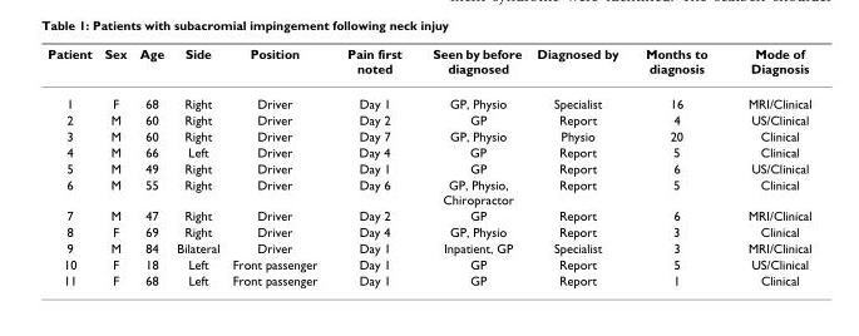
<table><thead><tr><td>Patient</td><td>Sex</td><td>Age</td><td>Side</td><td>Position</td><td>Pain first noted</td><td>Seen by before diagnosed</td><td>Diagnosed by</td><td>Months to diagnosis</td><td>Mode of Diagnosis</td></tr></thead><tbody><tr><td>1</td><td>F</td><td>68</td><td>Right</td><td>Driver</td><td>Day 1</td><td>GP, Physio</td><td>Specialist</td><td>16</td><td>MRI/Clinical</td></tr><tr><td>2</td><td>M</td><td>60</td><td>Right</td><td>Driver</td><td>Day 2</td><td>GP</td><td>Report</td><td>4</td><td>US/Clinical</td></tr><tr><td>3</td><td>M</td><td>60</td><td>Right</td><td>Driver</td><td>Day 7</td><td>GP, Physio</td><td>Physio</td><td>20</td><td>Clinical</td></tr><tr><td>4</td><td>M</td><td>66</td><td>Left</td><td>Driver</td><td>Day 4</td><td>GP</td><td>Report</td><td>5</td><td>Clinical</td></tr><tr><td>5</td><td>M</td><td>49</td><td>Right</td><td>Driver</td><td>Day 1</td><td>GP</td><td>Report</td><td>6</td><td>US/Clinical</td></tr><tr><td>6</td><td>M</td><td>55</td><td>Right</td><td>Driver</td><td>Day 6</td><td>GP, Physio, Chiropractor</td><td>Report</td><td>5</td><td>Clinical</td></tr><tr><td>7</td><td>M</td><td>47</td><td>Right</td><td>Driver</td><td>Day 2</td><td>GP</td><td>Report</td><td>6</td><td>MRI/Clinical</td></tr><tr><td>8</td><td>F</td><td>69</td><td>Right</td><td>Driver</td><td>Day 4</td><td>GP, Physio</td><td>Report</td><td>3</td><td>Clinical</td></tr><tr><td>9</td><td>M</td><td>84</td><td>Bilateral</td><td>Driver</td><td>Day 1</td><td>Inpatient, GP</td><td>Specialist</td><td>3</td><td>MRI/Clinical</td></tr><tr><td>10</td><td>F</td><td>18</td><td>Left</td><td>Front passenger</td><td>Day 1</td><td>GP</td><td>Report</td><td>5</td><td>US/Clinical</td></tr><tr><td>11</td><td>F</td><td>68</td><td>Left</td><td>Front passenger</td><td>Day 1</td><td>GP</td><td>Report</td><td>1</td><td>Clinical</td></tr></tbody></table>